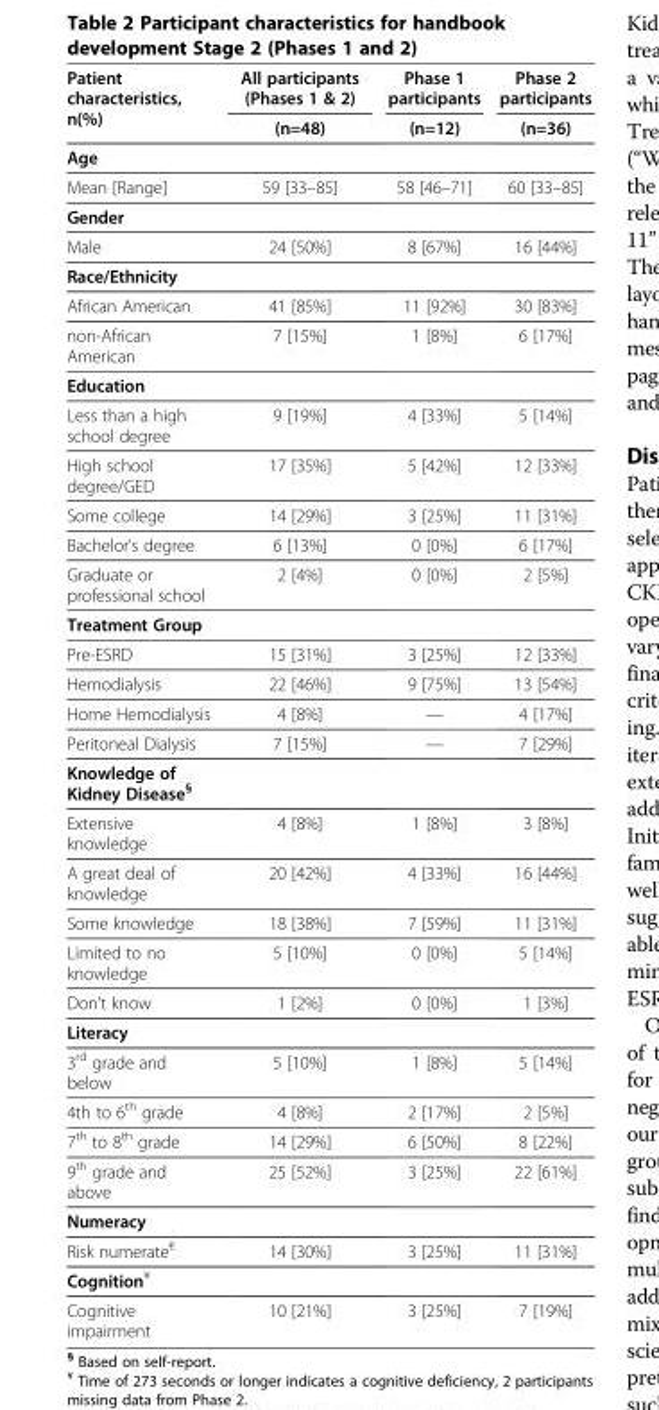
<table><thead><tr><td rowspan="2">Patient characteristics, n(%)</td><td rowspan="2">All participants (Phases 1 &amp; 2) (n=48)</td><td rowspan="2">Phase 1 participants (n=12)</td><td rowspan="2">Phase 2 participants (n=36)</td></tr><tr></tr></thead><tbody><tr><td colspan="4">Age</td></tr><tr><td>Mean [Range]</td><td>59 [33–85]</td><td>58 [46–71]</td><td>60 [33–85]</td></tr><tr><td colspan="4">Gender</td></tr><tr><td>Male</td><td>24 [50%]</td><td>8 [67%]</td><td>16 [44%]</td></tr><tr><td colspan="4">Race/Ethnicity</td></tr><tr><td>African American</td><td>41 [85%]</td><td>11 [92%]</td><td>30 [83%]</td></tr><tr><td>non-African American</td><td>7 [15%]</td><td>1 [8%]</td><td>6 [17%]</td></tr><tr><td colspan="4">Education</td></tr><tr><td>Less than a high school degree</td><td>9 [19%]</td><td>4 [33%]</td><td>5 [14%]</td></tr><tr><td>High school degree/GED</td><td>17 [35%]</td><td>5 [42%]</td><td>12 [33%]</td></tr><tr><td>Some college</td><td>14 [29%]</td><td>3 [25%]</td><td>11 [31%]</td></tr><tr><td>Bachelor’s degree</td><td>6 [13%]</td><td>0 [0%]</td><td>6 [17%]</td></tr><tr><td>Graduate or professional school</td><td>2 [4%]</td><td>0 [0%]</td><td>2 [5%]</td></tr><tr><td colspan="4">Treatment Group</td></tr><tr><td>Pre-ESRD</td><td>15 [31%]</td><td>3 [25%]</td><td>12 [33%]</td></tr><tr><td>Hemodialysis</td><td>22 [46%]</td><td>9 [75%]</td><td>13 [54%]</td></tr><tr><td>Home Hemodialysis</td><td>4 [8%]</td><td>—</td><td>4 [17%]</td></tr><tr><td>Peritoneal Dialysis</td><td>7 [15%]</td><td>—</td><td>7 [29%]</td></tr><tr><td colspan="4">Knowledge of Kidney Disease<sup>§</sup></td></tr><tr><td>Extensive knowledge</td><td>4 [8%]</td><td>1 [8%]</td><td>3 [8%]</td></tr><tr><td>A great deal of knowledge</td><td>20 [42%]</td><td>4 [33%]</td><td>16 [44%]</td></tr><tr><td>Some knowledge</td><td>18 [38%]</td><td>7 [59%]</td><td>11 [31%]</td></tr><tr><td>Limited to no knowledge</td><td>5 [10%]</td><td>0 [0%]</td><td>5 [14%]</td></tr><tr><td>Don’t know</td><td>1 [2%]</td><td>0 [0%]</td><td>1 [3%]</td></tr><tr><td colspan="4">Literacy</td></tr><tr><td>3<sup>rd</sup> grade and below</td><td>5 [10%]</td><td>1 [8%]</td><td>5 [14%]</td></tr><tr><td>4th to 6<sup>th</sup> grade</td><td>4 [8%]</td><td>2 [17%]</td><td>2 [5%]</td></tr><tr><td>7<sup>th</sup> to 8<sup>th</sup> grade</td><td>14 [29%]</td><td>6 [50%]</td><td>8 [22%]</td></tr><tr><td>9<sup>th</sup> grade and above</td><td>25 [52%]</td><td>3 [25%]</td><td>22 [61%]</td></tr><tr><td colspan="4">Numeracy</td></tr><tr><td>Risk numerate<sup>€</sup></td><td>14 [30%]</td><td>3 [25%]</td><td>11 [31%]</td></tr><tr><td colspan="4">Cognition<sup>¥</sup></td></tr><tr><td>Cognitive impairment</td><td>10 [21%]</td><td>3 [25%]</td><td>7 [19%]</td></tr></tbody></table>